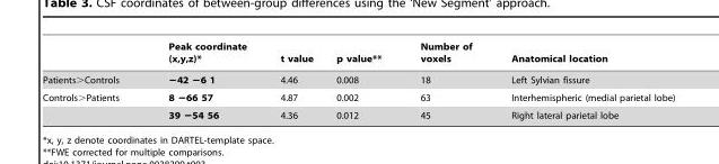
<table><thead><tr><td></td><td>Peak coordinate (x,y,z)*</td><td>t value</td><td>p value**</td><td>Number of voxels</td><td>Anatomical location</td></tr></thead><tbody><tr><td>Patients&gt;Controls</td><td>−42 −6 1</td><td>4.46</td><td>0.008</td><td>18</td><td>Left Sylvian fissure</td></tr><tr><td rowspan="2">Controls&gt;Patients</td><td>8 −66 57</td><td>4.87</td><td>0.002</td><td>63</td><td>Interhemispheric (medial parietal lobe)</td></tr><tr><td>39 −54 56</td><td>4.36</td><td>0.012</td><td>45</td><td>Right lateral parietal lobe</td></tr></tbody></table>